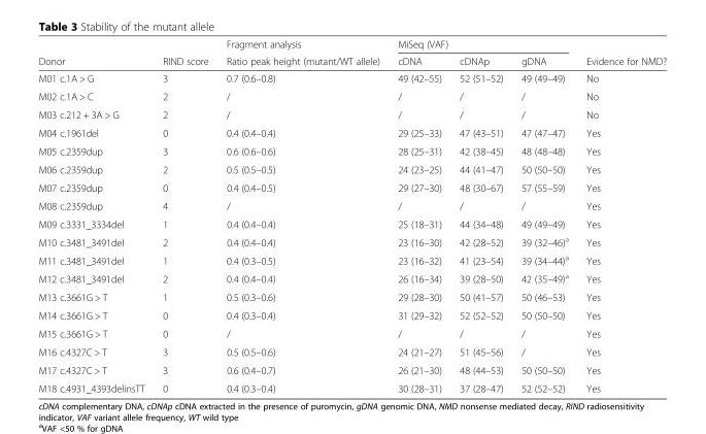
<table><thead><tr><td rowspan="2">Donor</td><td rowspan="2">RIND score</td><td rowspan="2">Fragment analysis Ratio peak height (mutant/WT allele)</td><td colspan="3">MiSeq (VAF)</td><td rowspan="2">Evidence for NMD?</td></tr><tr><td>cDNA</td><td>cDNAp</td><td>gDNA</td></tr></thead><tbody><tr><td>M01 c.1A &gt; G</td><td>3</td><td>0.7 (0.6–0.8)</td><td>49 (42–55)</td><td>52 (51–52)</td><td>49 (49–49)</td><td>No</td></tr><tr><td>M02 c.1A &gt; C</td><td>2</td><td>/</td><td>/</td><td>/</td><td>/</td><td>No</td></tr><tr><td>M03 c.212 + 3A &gt; G</td><td>2</td><td>/</td><td>/</td><td>/</td><td>/</td><td>No</td></tr><tr><td>M04 c.1961del</td><td>0</td><td>0.4 (0.4–0.4)</td><td>29 (25–33)</td><td>47 (43–51)</td><td>47 (47–47)</td><td>Yes</td></tr><tr><td>M05 c.2359dup</td><td>3</td><td>0.6 (0.6–0.6)</td><td>28 (25–31)</td><td>42 (38–45)</td><td>48 (48–48)</td><td>Yes</td></tr><tr><td>M06 c.2359dup</td><td>2</td><td>0.5 (0.5–0.5)</td><td>24 (23–25)</td><td>44 (41–47)</td><td>50 (50–50)</td><td>Yes</td></tr><tr><td>M07 c.2359dup</td><td>0</td><td>0.4 (0.4–0.5)</td><td>29 (27–30)</td><td>48 (30–67)</td><td>57 (55–59)</td><td>Yes</td></tr><tr><td>M08 c.2359dup</td><td>4</td><td>/</td><td>/</td><td>/</td><td>/</td><td>Yes</td></tr><tr><td>M09 c.3331_3334del</td><td>1</td><td>0.4 (0.4–0.4)</td><td>25 (18–31)</td><td>44 (34–48)</td><td>49 (49–49)</td><td>Yes</td></tr><tr><td>M10 c.3481_3491del</td><td>2</td><td>0.4 (0.4–0.4)</td><td>23 (16–30)</td><td>42 (28–52)</td><td>39 (32–46)<sup>a</sup></td><td>Yes</td></tr><tr><td>M11 c.3481_3491del</td><td>1</td><td>0.4 (0.3–0.5)</td><td>23 (16–32)</td><td>41 (23–54)</td><td>39 (34–44)<sup>a</sup></td><td>Yes</td></tr><tr><td>M12 c.3481_3491del</td><td>2</td><td>0.4 (0.4–0.4)</td><td>26 (16–34)</td><td>39 (28–50)</td><td>42 (35–49)<sup>a</sup></td><td>Yes</td></tr><tr><td>M13 c.3661G &gt; T</td><td>1</td><td>0.5 (0.3–0.6)</td><td>29 (28–30)</td><td>50 (41–57)</td><td>50 (46–53)</td><td>Yes</td></tr><tr><td>M14 c.3661G &gt; T</td><td>0</td><td>0.4 (0.3–0.4)</td><td>31 (29–32)</td><td>52 (52–52)</td><td>50 (50–50)</td><td>Yes</td></tr><tr><td>M15 c.3661G &gt; T</td><td>0</td><td>/</td><td>/</td><td>/</td><td>/</td><td>Yes</td></tr><tr><td>M16 c.4327C &gt; T</td><td>3</td><td>0.5 (0.5–0.6)</td><td>24 (21–27)</td><td>51 (45–56)</td><td>/</td><td>Yes</td></tr><tr><td>M17 c.4327C &gt; T</td><td>3</td><td>0.6 (0.4–0.7)</td><td>26 (21–30)</td><td>48 (44–53)</td><td>50 (50–50)</td><td>Yes</td></tr><tr><td>M18 c.4931_4393delinsTT</td><td>0</td><td>0.4 (0.3–0.4)</td><td>30 (28–31)</td><td>37 (28–47)</td><td>52 (52–52)</td><td>Yes</td></tr></tbody></table>